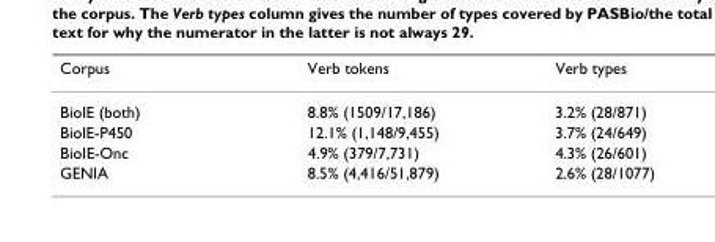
<table><thead><tr><td>Corpus</td><td>Verb tokens</td><td>Verb types</td></tr></thead><tbody><tr><td>BioIE (both)</td><td>8.8% (1509/17,186)</td><td>3.2% (28/871)</td></tr><tr><td>BioIE-P450</td><td>12.1% (1,148/9,455)</td><td>3.7% (24/649)</td></tr><tr><td>BioIE-Onc</td><td>4.9% (379/7,731)</td><td>4.3% (26/601)</td></tr><tr><td>GENIA</td><td>8.5% (4,416/51,879)</td><td>2.6% (28/1077)</td></tr></tbody></table>